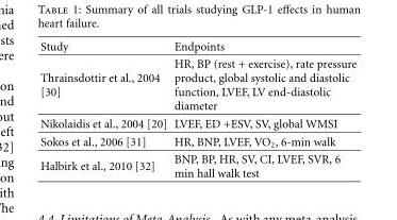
<table><thead><tr><td>Study</td><td>Endpoints</td></tr></thead><tbody><tr><td>Thrainsdottir et al., 2004 [30]</td><td>HR, BP (rest + exercise), rate pressure product, global systolic and diastolic function, LVEF, LV end-diastolic diameter</td></tr><tr><td>Nikolaidis et al., 2004 [20]</td><td>LVEF, ED +ESV, SV, global WMSI</td></tr><tr><td>Sokos et al., 2006 [31]</td><td>HR, BNP, LVEF, VO<sub>2</sub>, 6-min walk</td></tr><tr><td>Halbirk et al., 2010 [32]</td><td>BNP, BP, HR, SV, CI, LVEF, SVR, 6 min hall walk test</td></tr></tbody></table>